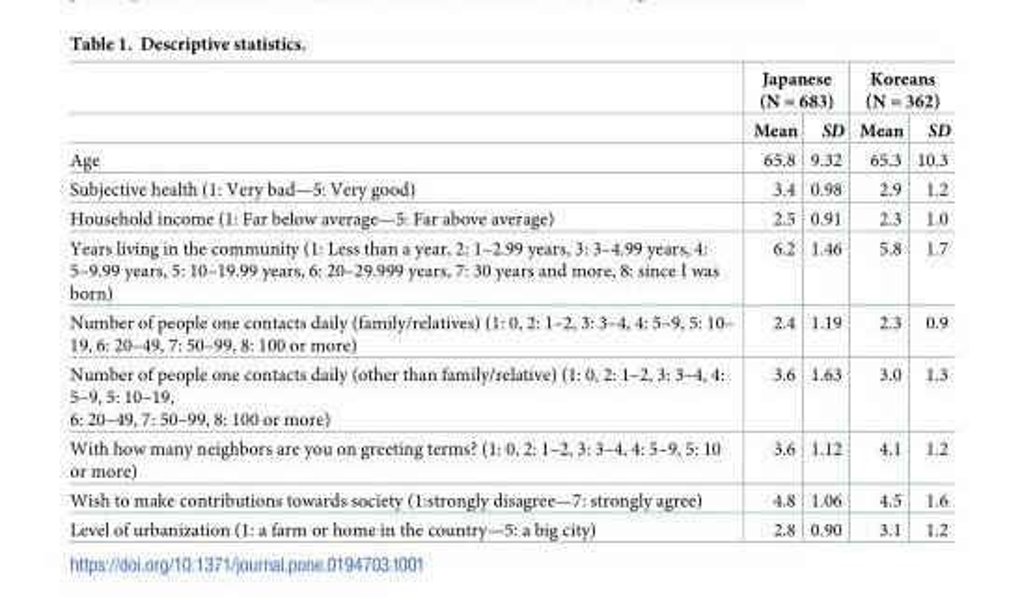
<table><thead><tr><td rowspan="2"></td><td colspan="2">Japanese (N = 683)</td><td colspan="2">Koreans (N = 362)</td></tr><tr><td>Mean</td><td>SD</td><td>Mean</td><td>SD</td></tr></thead><tbody><tr><td>Age</td><td>65.8</td><td>9.32</td><td>65.3</td><td>10.3</td></tr><tr><td>Subjective health (1: Very bad—5: Very good)</td><td>3.4</td><td>0.98</td><td>2.9</td><td>1.2</td></tr><tr><td>Household income (1: Far below average—5: Far above average)</td><td>2.5</td><td>0.91</td><td>2.3</td><td>1.0</td></tr><tr><td>Years living in the community (1: Less than a year, 2: 1–2.99 years, 3: 3–4.99 years, 4: 5–9.99 years, 5: 10–19.99 years, 6: 20–29.999 years, 7: 30 years and more, 8: since I was born)</td><td>6.2</td><td>1.46</td><td>5.8</td><td>1.7</td></tr><tr><td>Number of people one contacts daily (family/relatives) (1: 0, 2: 1–2, 3: 3–4, 4: 5–9, 5: 10– 19, 6: 20–49, 7: 50–99, 8: 100 or more)</td><td>2.4</td><td>1.19</td><td>2.3</td><td>0.9</td></tr><tr><td>Number of people one contacts daily (other than family/relative) (1: 0, 2: 1–2, 3: 3–4, 4: 5–9, 5: 10–19, 6: 20–49, 7: 50–99, 8: 100 or more)</td><td>3.6</td><td>1.63</td><td>3.0</td><td>1.3</td></tr><tr><td>With how many neighbors are you on greeting terms? (1: 0, 2: 1–2, 3: 3–4, 4: 5–9, 5: 10 or more)</td><td>3.6</td><td>1.12</td><td>4.1</td><td>1.2</td></tr><tr><td>Wish to make contributions towards society (1:strongly disagree—7: strongly agree)</td><td>4.8</td><td>1.06</td><td>4.5</td><td>1.6</td></tr><tr><td>Level of urbanization (1: a farm or home in the country—5: a big city)</td><td>2.8</td><td>0.90</td><td>3.1</td><td>1.2</td></tr></tbody></table>